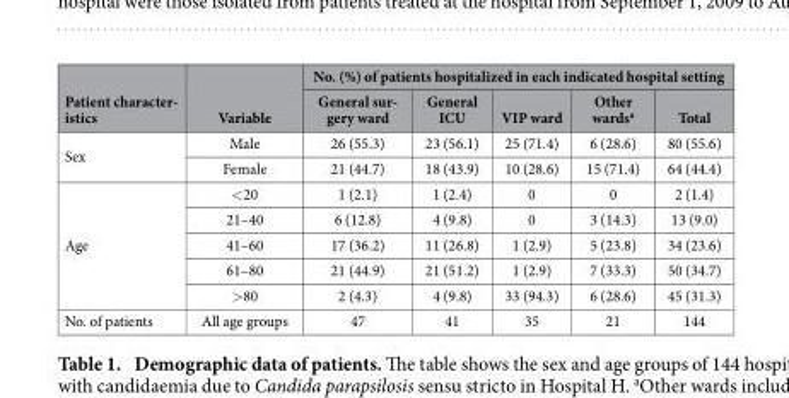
<table><thead><tr><td rowspan="2">Patient character- istics</td><td rowspan="2">Variable</td><td colspan="5">No. (%) of patients hospitalized in each indicated hospital setting</td></tr><tr><td>General sur- gery ward</td><td>General ICU</td><td>VIP ward</td><td>Other wards<sup>a</sup></td><td>Total</td></tr></thead><tbody><tr><td rowspan="2">Sex</td><td>Male</td><td>26 (55.3)</td><td>23 (56.1)</td><td>25 (71.4)</td><td>6 (28.6)</td><td>80 (55.6)</td></tr><tr><td>Female</td><td>21 (44.7)</td><td>18 (43.9)</td><td>10 (28.6)</td><td>15 (71.4)</td><td>64 (44.4)</td></tr><tr><td rowspan="5">Age</td><td>&lt; 20</td><td>1 (2.1)</td><td>1 (2.4)</td><td>0</td><td>0</td><td>2 (1.4)</td></tr><tr><td>21–40</td><td>6 (12.8)</td><td>4 (9.8)</td><td>0</td><td>3 (14.3)</td><td>13 (9.0)</td></tr><tr><td>41–60</td><td>17 (36.2)</td><td>11 (26.8)</td><td>1 (2.9)</td><td>5 (23.8)</td><td>34 (23.6)</td></tr><tr><td>61–80</td><td>21 (44.9)</td><td>21 (51.2)</td><td>1 (2.9)</td><td>7 (33.3)</td><td>50 (34.7)</td></tr><tr><td>&gt; 80</td><td>2 (4.3)</td><td>4 (9.8)</td><td>33 (94.3)</td><td>6 (28.6)</td><td>45 (31.3)</td></tr><tr><td>No. of patients</td><td>All age groups</td><td>47</td><td>41</td><td>35</td><td>21</td><td>144</td></tr></tbody></table>